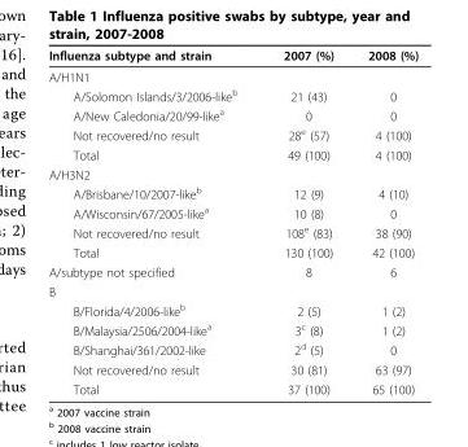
<table><thead><tr><td>Influenza subtype and strain</td><td>2007 (%)</td><td>2008 (%)</td></tr></thead><tbody><tr><td colspan="3">A/H1N1</td></tr><tr><td>A/Solomon Islands/3/2006-like<sup>b</sup></td><td>21 (43)</td><td>0</td></tr><tr><td>A/New Caledonia/20/99-like<sup>a</sup></td><td>0</td><td>0</td></tr><tr><td>Not recovered/no result</td><td>28<sup>e</sup> (57)</td><td>4 (100)</td></tr><tr><td>Total</td><td>49 (100)</td><td>4 (100)</td></tr><tr><td colspan="3">A/H3N2</td></tr><tr><td>A/Brisbane/10/2007-like<sup>b</sup></td><td>12 (9)</td><td>4 (10)</td></tr><tr><td>A/Wisconsin/67/2005-like<sup>a</sup></td><td>10 (8)</td><td>0</td></tr><tr><td>Not recovered/no result</td><td>108<sup>e</sup> (83)</td><td>38 (90)</td></tr><tr><td>Total</td><td>130 (100)</td><td>42 (100)</td></tr><tr><td>A/subtype not specified</td><td>8</td><td>6</td></tr><tr><td colspan="3">B</td></tr><tr><td>B/Florida/4/2006-like<sup>b</sup></td><td>2 (5)</td><td>1 (2)</td></tr><tr><td>B/Malaysia/2506/2004-like<sup>a</sup></td><td>3<sup>c</sup> (8)</td><td>1 (2)</td></tr><tr><td>B/Shanghai/361/2002-like</td><td>2<sup>d</sup> (5)</td><td>0</td></tr><tr><td>Not recovered/no result</td><td>30 (81)</td><td>63 (97)</td></tr><tr><td>Total</td><td>37 (100)</td><td>65 (100)</td></tr></tbody></table>